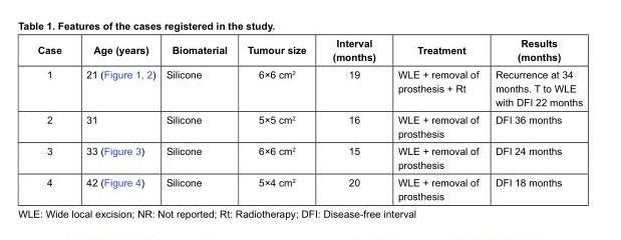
<table><thead><tr><td>Case</td><td>Age (years)</td><td>Biomaterial</td><td>Tumour size</td><td>Interval (months)</td><td>Treatment</td><td>Results (months)</td></tr></thead><tbody><tr><td>1</td><td>21 (Figure 1, 2)</td><td>Silicone</td><td>6×6 cm<sup>2</sup></td><td>19</td><td>WLE + removal of prosthesis + Rt</td><td>Recurrence at 34 months. T to WLE with DFI 22 months</td></tr><tr><td>2</td><td>31</td><td>Silicone</td><td>5×5 cm<sup>2</sup></td><td>16</td><td>WLE + removal of prosthesis</td><td>DFI 36 months</td></tr><tr><td>3</td><td>33 (Figure 3)</td><td>Silicone</td><td>6×6 cm<sup>2</sup></td><td>15</td><td>WLE + removal of prosthesis</td><td>DFI 24 months</td></tr><tr><td>4</td><td>42 (Figure 4)</td><td>Silicone</td><td>5×4 cm<sup>2</sup></td><td>20</td><td>WLE + removal of prosthesis</td><td>DFI 18 months</td></tr></tbody></table>